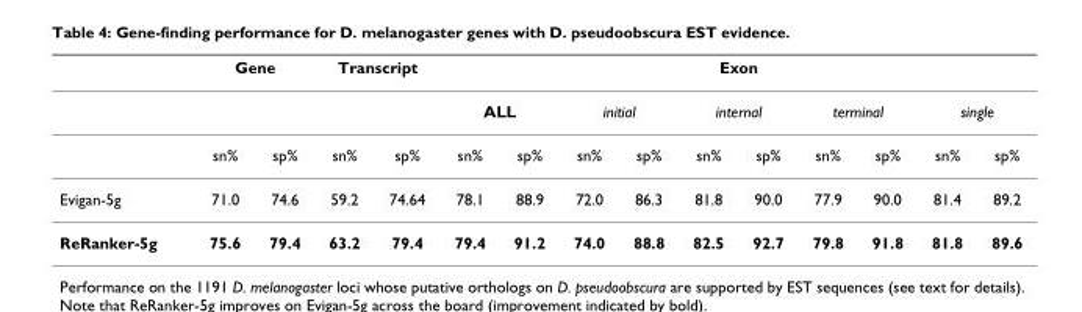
<table><thead><tr><td rowspan="3"></td><td colspan="2">Gene</td><td colspan="2">Transcript</td><td colspan="10">Exon</td></tr><tr><td rowspan="2">sn%</td><td rowspan="2">sp%</td><td rowspan="2">sn%</td><td rowspan="2">sp%</td><td colspan="2">ALL</td><td colspan="2">initial</td><td colspan="2">internal</td><td colspan="2">terminal</td><td colspan="2">single</td></tr><tr><td>sn%</td><td>sp%</td><td>sn%</td><td>sp%</td><td>sn%</td><td>sp%</td><td>sn%</td><td>sp%</td><td>sn%</td><td>sp%</td></tr></thead><tbody><tr><td>Evigan-5g</td><td>71.0</td><td>74.6</td><td>59.2</td><td>74.64</td><td>78.1</td><td>88.9</td><td>72.0</td><td>86.3</td><td>81.8</td><td>90.0</td><td>77.9</td><td>90.0</td><td>81.4</td><td>89.2</td></tr><tr><td>ReRanker-5g</td><td>75.6</td><td>79.4</td><td>63.2</td><td>79.4</td><td>79.4</td><td>91.2</td><td>74.0</td><td>88.8</td><td>82.5</td><td>92.7</td><td>79.8</td><td>91.8</td><td>81.8</td><td>89.6</td></tr></tbody></table>